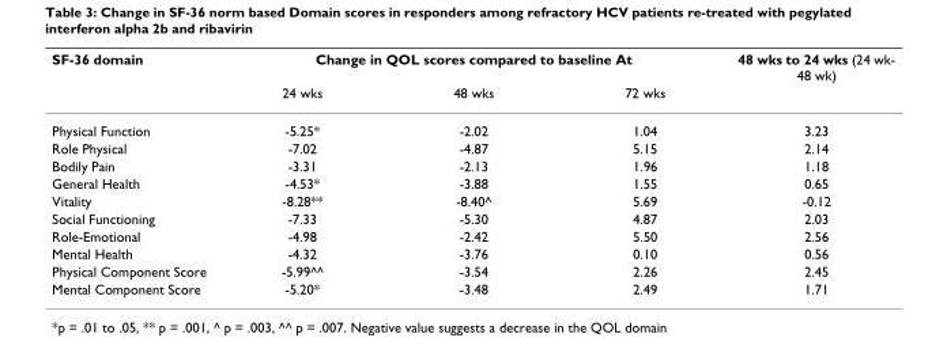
<table><thead><tr><td rowspan="2">SF-36 domain</td><td colspan="3">Change in QOL scores compared to baseline At</td><td rowspan="2">48 wks to 24 wks (24 wk- 48 wk)</td></tr><tr><td>24 wks</td><td>48 wks</td><td>72 wks</td></tr></thead><tbody><tr><td>Physical Function</td><td>-5.25*</td><td>-2.02</td><td>1.04</td><td>3.23</td></tr><tr><td>Role Physical</td><td>-7.02</td><td>-4.87</td><td>5.15</td><td>2.14</td></tr><tr><td>Bodily Pain</td><td>-3.31</td><td>-2.13</td><td>1.96</td><td>1.18</td></tr><tr><td>General Health</td><td>-4.53*</td><td>-3.88</td><td>1.55</td><td>0.65</td></tr><tr><td>Vitality</td><td>-8.28**</td><td>-8.40^</td><td>5.69</td><td>-0.12</td></tr><tr><td>Social Functioning</td><td>-7.33</td><td>-5.30</td><td>4.87</td><td>2.03</td></tr><tr><td>Role-Emotional</td><td>-4.98</td><td>-2.42</td><td>5.50</td><td>2.56</td></tr><tr><td>Mental Health</td><td>-4.32</td><td>-3.76</td><td>0.10</td><td>0.56</td></tr><tr><td>Physical Component Score</td><td>-5.99^^</td><td>-3.54</td><td>2.26</td><td>2.45</td></tr><tr><td>Mental Component Score</td><td>-5.20*</td><td>-3.48</td><td>2.49</td><td>1.71</td></tr></tbody></table>